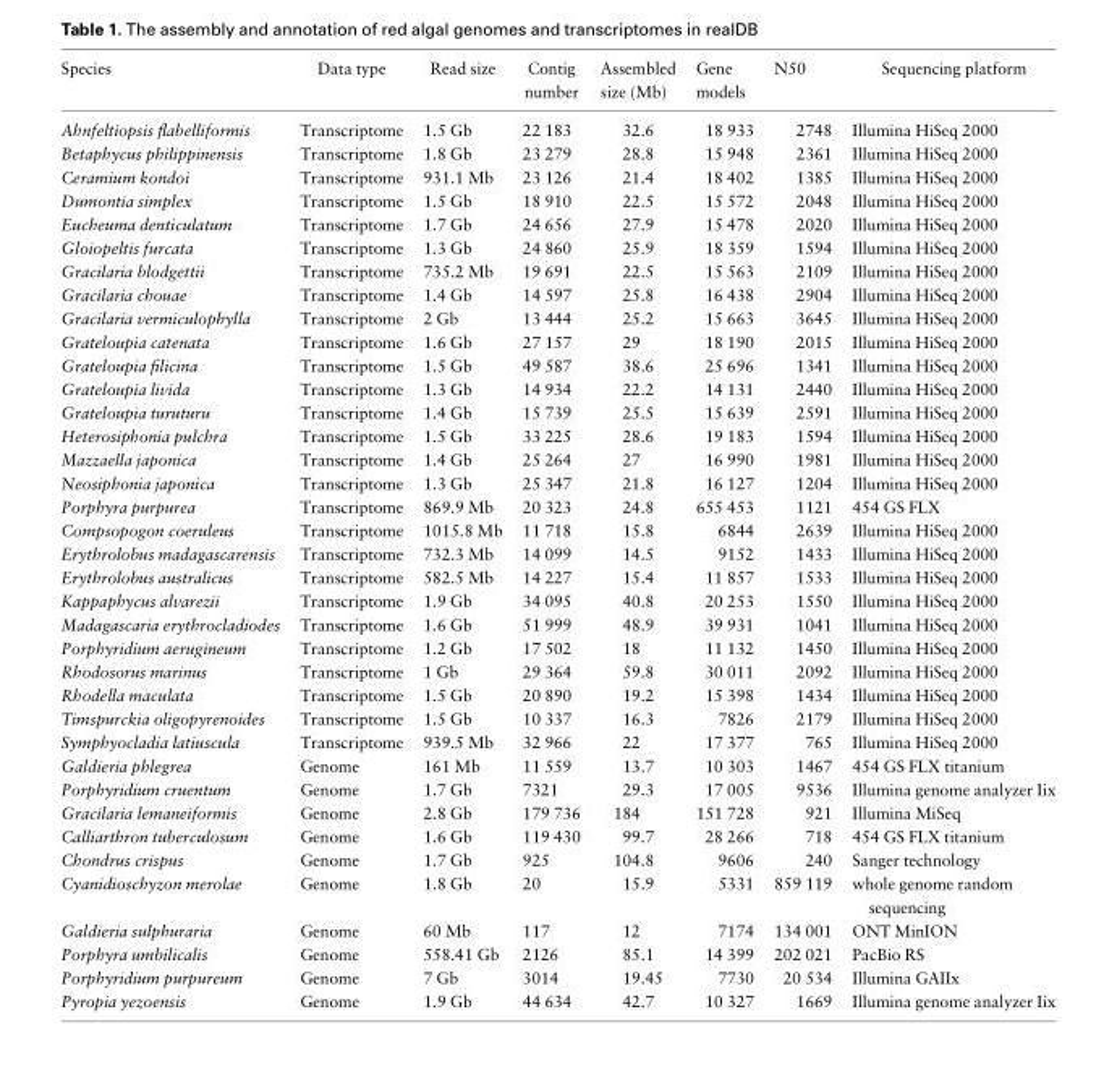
<table><thead><tr><td>Species</td><td>Data type</td><td>Read size</td><td>Contig number</td><td>Assembled size (Mb)</td><td>Gene models</td><td>N50</td><td>Sequencing platform</td></tr></thead><tbody><tr><td>Ahnfeltiopsis flabelliformis</td><td>Transcriptome</td><td>1.5 Gb</td><td>22 183</td><td>32.6</td><td>18 933</td><td>2748</td><td>Illumina HiSeq 2000</td></tr><tr><td>Betaphycus philippinensis</td><td>Transcriptome</td><td>1.8 Gb</td><td>23 279</td><td>28.8</td><td>15 948</td><td>2361</td><td>Illumina HiSeq 2000</td></tr><tr><td>Ceramium kondoi</td><td>Transcriptome</td><td>931.1 Mb</td><td>23 126</td><td>21.4</td><td>18 402</td><td>1385</td><td>Illumina HiSeq 2000</td></tr><tr><td>Dumontia simplex</td><td>Transcriptome</td><td>1.5 Gb</td><td>18 910</td><td>22.5</td><td>15 572</td><td>2048</td><td>Illumina HiSeq 2000</td></tr><tr><td>Eucheuma denticulatum</td><td>Transcriptome</td><td>1.7 Gb</td><td>24 656</td><td>27.9</td><td>15 478</td><td>2020</td><td>Illumina HiSeq 2000</td></tr><tr><td>Gloiopeltis furcata</td><td>Transcriptome</td><td>1.3 Gb</td><td>24 860</td><td>25.9</td><td>18 359</td><td>1594</td><td>Illumina HiSeq 2000</td></tr><tr><td>Gracilaria blodgettii</td><td>Transcriptome</td><td>735.2 Mb</td><td>19 691</td><td>22.5</td><td>15 563</td><td>2109</td><td>Illumina HiSeq 2000</td></tr><tr><td>Gracilaria chouae</td><td>Transcriptome</td><td>1.4 Gb</td><td>14 597</td><td>25.8</td><td>16 438</td><td>2904</td><td>Illumina HiSeq 2000</td></tr><tr><td>Gracilaria vermiculophylla</td><td>Transcriptome</td><td>2 Gb</td><td>13 444</td><td>25.2</td><td>15 663</td><td>3645</td><td>Illumina HiSeq 2000</td></tr><tr><td>Grateloupia catenata</td><td>Transcriptome</td><td>1.6 Gb</td><td>27 157</td><td>29</td><td>18 190</td><td>2015</td><td>Illumina HiSeq 2000</td></tr><tr><td>Grateloupia filicina</td><td>Transcriptome</td><td>1.5 Gb</td><td>49 587</td><td>38.6</td><td>25 696</td><td>1341</td><td>Illumina HiSeq 2000</td></tr><tr><td>Grateloupia livida</td><td>Transcriptome</td><td>1.3 Gb</td><td>14 934</td><td>22.2</td><td>14 131</td><td>2440</td><td>Illumina HiSeq 2000</td></tr><tr><td>Grateloupia turuturu</td><td>Transcriptome</td><td>1.4 Gb</td><td>15 739</td><td>25.5</td><td>15 639</td><td>2591</td><td>Illumina HiSeq 2000</td></tr><tr><td>Heterosiphonia pulchra</td><td>Transcriptome</td><td>1.5 Gb</td><td>33 225</td><td>28.6</td><td>19 183</td><td>1594</td><td>Illumina HiSeq 2000</td></tr><tr><td>Mazzaella japonica</td><td>Transcriptome</td><td>1.4 Gb</td><td>25 264</td><td>27</td><td>16 990</td><td>1981</td><td>Illumina HiSeq 2000</td></tr><tr><td>Neosiphonia japonica</td><td>Transcriptome</td><td>1.3 Gb</td><td>25 347</td><td>21.8</td><td>16 127</td><td>1204</td><td>Illumina HiSeq 2000</td></tr><tr><td>Porphyra purpurea</td><td>Transcriptome</td><td>869.9 Mb</td><td>20 323</td><td>24.8</td><td>655 453</td><td>1121</td><td>454 GS FLX</td></tr><tr><td>Compsopogon coeruleus</td><td>Transcriptome</td><td>1015.8 Mb</td><td>11 718</td><td>15.8</td><td>6844</td><td>2639</td><td>Illumina HiSeq 2000</td></tr><tr><td>Erythrolobus madagascarensis</td><td>Transcriptome</td><td>732.3 Mb</td><td>14 099</td><td>14.5</td><td>9152</td><td>1433</td><td>Illumina HiSeq 2000</td></tr><tr><td>Erythrolobus australicus</td><td>Transcriptome</td><td>582.5 Mb</td><td>14 227</td><td>15.4</td><td>11 857</td><td>1533</td><td>Illumina HiSeq 2000</td></tr><tr><td>Kappaphycus alvarezii</td><td>Transcriptome</td><td>1.9 Gb</td><td>34 095</td><td>40.8</td><td>20 253</td><td>1550</td><td>Illumina HiSeq 2000</td></tr><tr><td>Madagascaria erythrocladiodes</td><td>Transcriptome</td><td>1.6 Gb</td><td>51 999</td><td>48.9</td><td>39 931</td><td>1041</td><td>Illumina HiSeq 2000</td></tr><tr><td>Porphyridium aerugineum</td><td>Transcriptome</td><td>1.2 Gb</td><td>17 502</td><td>18</td><td>11 132</td><td>1450</td><td>Illumina HiSeq 2000</td></tr><tr><td>Rhodosorus marinus</td><td>Transcriptome</td><td>1 Gb</td><td>29 364</td><td>59.8</td><td>30 011</td><td>2092</td><td>Illumina HiSeq 2000</td></tr><tr><td>Rhodella maculata</td><td>Transcriptome</td><td>1.5 Gb</td><td>20 890</td><td>19.2</td><td>15 398</td><td>1434</td><td>Illumina HiSeq 2000</td></tr><tr><td>Timspurckia oligopyrenoides</td><td>Transcriptome</td><td>1.5 Gb</td><td>10 337</td><td>16.3</td><td>7826</td><td>2179</td><td>Illumina HiSeq 2000</td></tr><tr><td>Symphyocladia latiuscula</td><td>Transcriptome</td><td>939.5 Mb</td><td>32 966</td><td>22</td><td>17 377</td><td>765</td><td>Illumina HiSeq 2000</td></tr><tr><td>Galdieria phlegrea</td><td>Genome</td><td>161 Mb</td><td>11 559</td><td>13.7</td><td>10 303</td><td>1467</td><td>454 GS FLX titanium</td></tr><tr><td>Porphyridium cruentum</td><td>Genome</td><td>1.7 Gb</td><td>7321</td><td>29.3</td><td>17 005</td><td>9536</td><td>Illumina genome analyzer Iix</td></tr><tr><td>Gracilaria lemaneiformis</td><td>Genome</td><td>2.8 Gb</td><td>179 736</td><td>184</td><td>151 728</td><td>921</td><td>Illumina MiSeq</td></tr><tr><td>Calliarthron tuberculosum</td><td>Genome</td><td>1.6 Gb</td><td>119 430</td><td>99.7</td><td>28 266</td><td>718</td><td>454 GS FLX titanium</td></tr><tr><td>Chondrus crispus</td><td>Genome</td><td>1.7 Gb</td><td>925</td><td>104.8</td><td>9606</td><td>240</td><td>Sanger technology</td></tr><tr><td>Cyanidioschyzon merolae</td><td>Genome</td><td>1.8 Gb</td><td>20</td><td>15.9</td><td>5331</td><td>859 119</td><td>whole genome random sequencing</td></tr><tr><td>Galdieria sulphuraria</td><td>Genome</td><td>60 Mb</td><td>117</td><td>12</td><td>7174</td><td>134 001</td><td>ONT MinION</td></tr><tr><td>Porphyra umbilicalis</td><td>Genome</td><td>558.41 Gb</td><td>2126</td><td>85.1</td><td>14 399</td><td>202 021</td><td>PacBio RS</td></tr><tr><td>Porphyridium purpureum</td><td>Genome</td><td>7 Gb</td><td>3014</td><td>19.45</td><td>7730</td><td>20 534</td><td>Illumina GAIIx</td></tr><tr><td>Pyropia yezoensis</td><td>Genome</td><td>1.9 Gb</td><td>44 634</td><td>42.7</td><td>10 327</td><td>1669</td><td>Illumina genome analyzer Iix</td></tr></tbody></table>